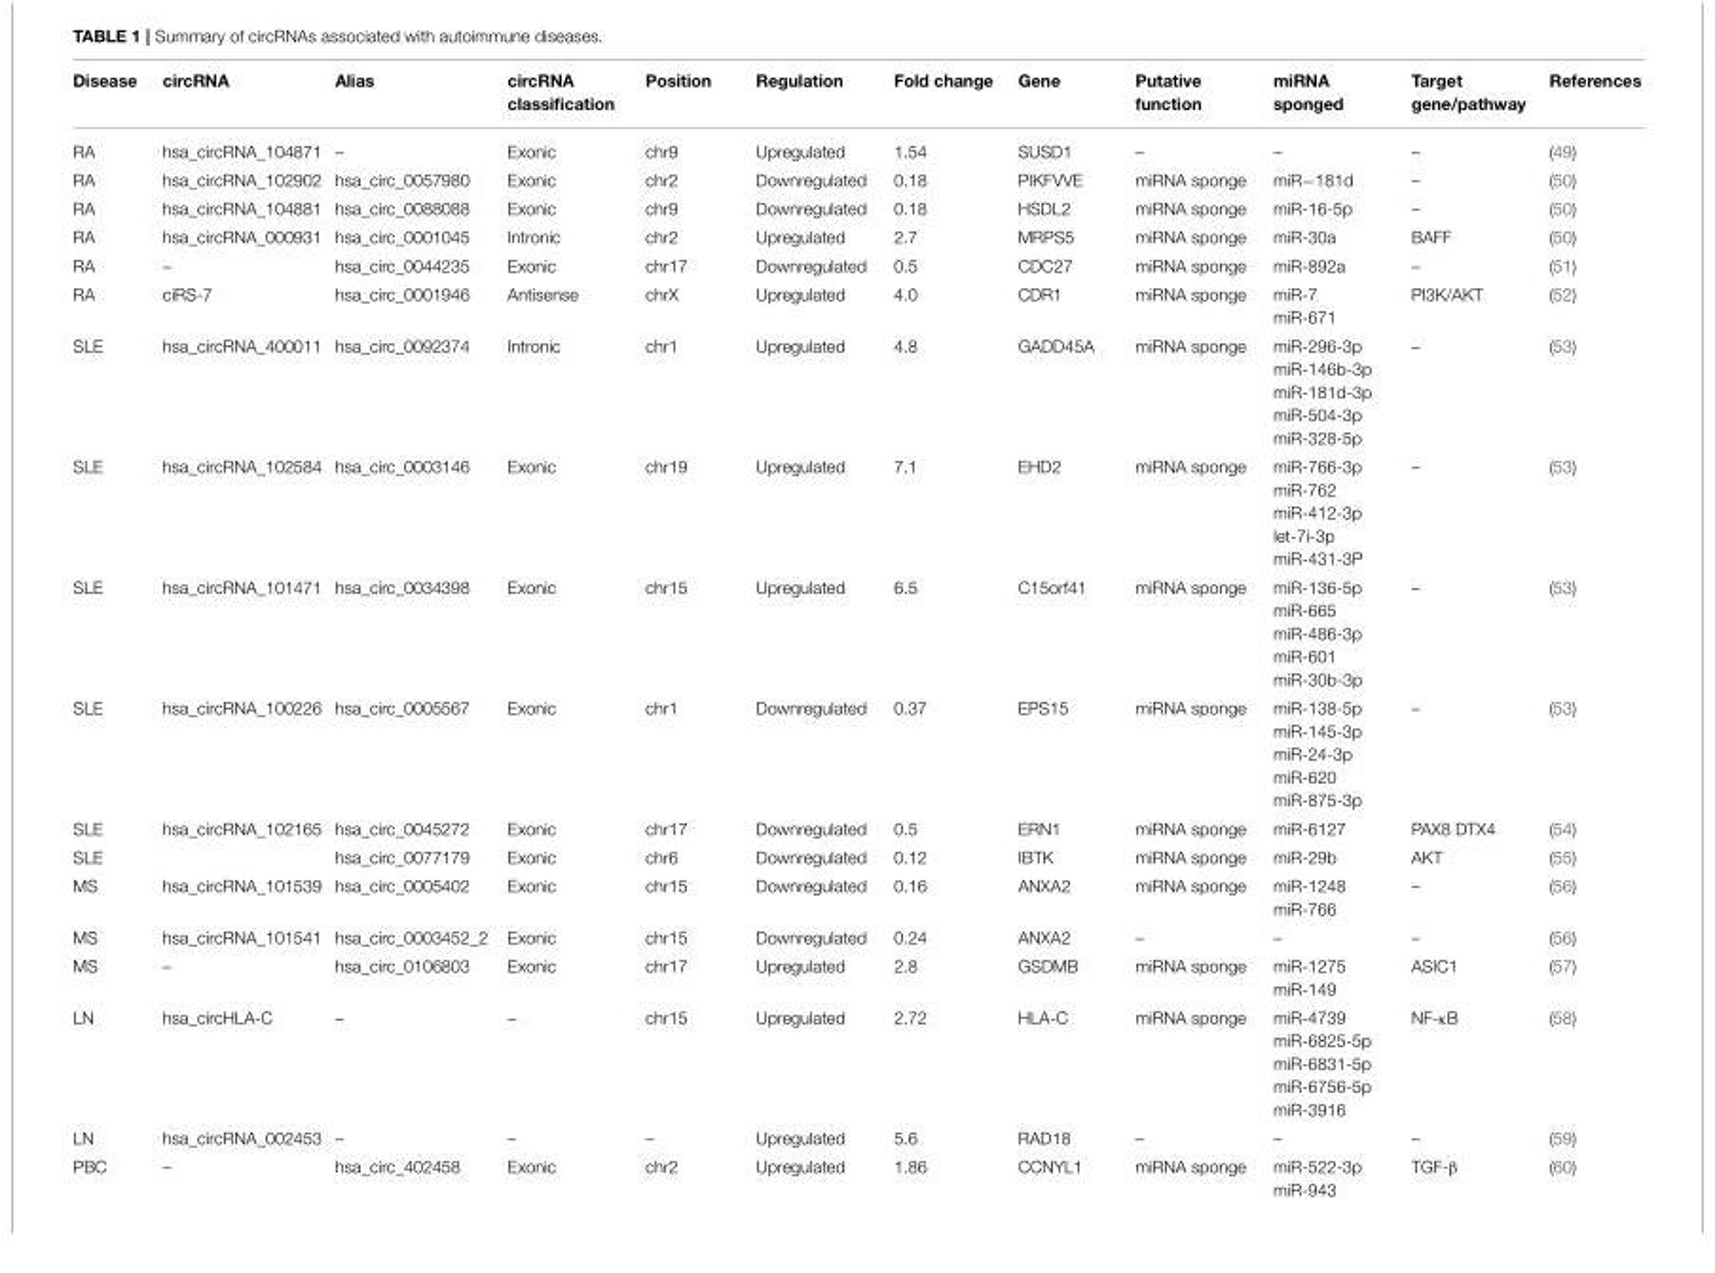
<table><thead><tr><td>Disease</td><td>circRNA</td><td>Alias</td><td>circRNA classification</td><td>Position</td><td>Regulation</td><td>Fold change</td><td>Gene</td><td>Putative function</td><td>miRNA sponged</td><td>Target gene/pathway</td><td>References</td></tr></thead><tbody><tr><td>RA</td><td>hsa_circRNA_104871</td><td>–</td><td>Exonic</td><td>chr9</td><td>Upregulated</td><td>1.54</td><td>SUSD1</td><td>–</td><td>–</td><td>–</td><td>(49)</td></tr><tr><td>RA</td><td>hsa_circRNA_102902</td><td>hsa_circ_0057980</td><td>Exonic</td><td>chr2</td><td>Downregulated</td><td>0.18</td><td>PIKFVVE</td><td>miRNA sponge</td><td>miR−181d</td><td>–</td><td>(50)</td></tr><tr><td>RA</td><td>hsa_circRNA_104881</td><td>hsa_circ_0088088</td><td>Exonic</td><td>chr9</td><td>Downregulated</td><td>0.18</td><td>HSDL2</td><td>miRNA sponge</td><td>miR-16-5p</td><td>–</td><td>(50)</td></tr><tr><td>RA</td><td>hsa_circRNA_000931</td><td>hsa_circ_0001045</td><td>Intronic</td><td>chr2</td><td>Upregulated</td><td>2.7</td><td>MRPS5</td><td>miRNA sponge</td><td>miR-30a</td><td>BAFF</td><td>(50)</td></tr><tr><td>RA</td><td>–</td><td>hsa_circ_0044235</td><td>Exonic</td><td>chr17</td><td>Downregulated</td><td>0.5</td><td>CDC27</td><td>miRNA sponge</td><td>miR-892a</td><td>–</td><td>(51)</td></tr><tr><td>RA</td><td>ciRS-7</td><td>hsa_circ_0001946</td><td>Antisense</td><td>chrX</td><td>Upregulated</td><td>4.0</td><td>CDR1</td><td>miRNA sponge</td><td>miR-7 miR-671</td><td>PI3K/AKT</td><td>(52)</td></tr><tr><td>SLE</td><td>hsa_circRNA_400011</td><td>hsa_circ_0092374</td><td>Intronic</td><td>chr1</td><td>Upregulated</td><td>4.8</td><td>GADD45A</td><td>miRNA sponge</td><td>miR-296-3p miR-146b-3p miR-181d-3p miR-504-3p miR-328-5p</td><td>–</td><td>(53)</td></tr><tr><td>SLE</td><td>hsa_circRNA_102584</td><td>hsa_circ_0003146</td><td>Exonic</td><td>chr19</td><td>Upregulated</td><td>7.1</td><td>EHD2</td><td>miRNA sponge</td><td>miR-766-3p miR-762 miR-412-3p let-7i-3p miR-431-3P</td><td>–</td><td>(53)</td></tr><tr><td>SLE</td><td>hsa_circRNA_101471</td><td>hsa_circ_0034398</td><td>Exonic</td><td>chr15</td><td>Upregulated</td><td>6.5</td><td>C15orf41</td><td>miRNA sponge</td><td>miR-136-5p miR-665 miR-486-3p miR-601 miR-30b-3p</td><td>–</td><td>(53)</td></tr><tr><td>SLE</td><td>hsa_circRNA_100226</td><td>hsa_circ_0005567</td><td>Exonic</td><td>chr1</td><td>Downregulated</td><td>0.37</td><td>EPS15</td><td>miRNA sponge</td><td>miR-138-5p miR-145-3p miR-24-3p miR-620 miR-875-3p</td><td>–</td><td>(53)</td></tr><tr><td>SLE</td><td>hsa_circRNA_102165</td><td>hsa_circ_0045272</td><td>Exonic</td><td>chr17</td><td>Downregulated</td><td>0.5</td><td>ERN1</td><td>miRNA sponge</td><td>miR-6127</td><td>PAX8 DTX4</td><td>(54)</td></tr><tr><td>SLE</td><td></td><td>hsa_circ_0077179</td><td>Exonic</td><td>chr6</td><td>Downregulated</td><td>0.12</td><td>IBTK</td><td>miRNA sponge</td><td>miR-29b</td><td>AKT</td><td>(55)</td></tr><tr><td>MS</td><td>hsa_circRNA_101539</td><td>hsa_circ_0005402</td><td>Exonic</td><td>chr15</td><td>Downregulated</td><td>0.16</td><td>ANXA2</td><td>miRNA sponge</td><td>miR-1248 miR-766</td><td>–</td><td>(56)</td></tr><tr><td>MS</td><td>hsa_circRNA_101541</td><td>hsa_circ_0003452_2</td><td>Exonic</td><td>chr15</td><td>Downregulated</td><td>0.24</td><td>ANXA2</td><td>–</td><td>–</td><td>–</td><td>(56)</td></tr><tr><td>MS</td><td>–</td><td>hsa_circ_0106803</td><td>Exonic</td><td>chr17</td><td>Upregulated</td><td>2.8</td><td>GSDMB</td><td>miRNA sponge</td><td>miR-1275 miR-149</td><td>ASIC1</td><td>(57)</td></tr><tr><td>LN</td><td>hsa_circHLA-C</td><td>–</td><td>–</td><td>chr15</td><td>Upregulated</td><td>2.72</td><td>HLA-C</td><td>miRNA sponge</td><td>miR-4739 miR-6825-5p miR-6831-5p miR-6756-5p miR-3916</td><td>NF-κB</td><td>(58)</td></tr><tr><td>LN</td><td>hsa_circRNA_002453</td><td>–</td><td>–</td><td>–</td><td>Upregulated</td><td>5.6</td><td>RAD18</td><td>–</td><td>–</td><td>–</td><td>(59)</td></tr><tr><td>PBC</td><td>–</td><td>hsa_circ_402458</td><td>Exonic</td><td>chr2</td><td>Upregulated</td><td>1.86</td><td>CCNYL1</td><td>miRNA sponge</td><td>miR-522-3p miR-943</td><td>TGF-β</td><td>(60)</td></tr></tbody></table>